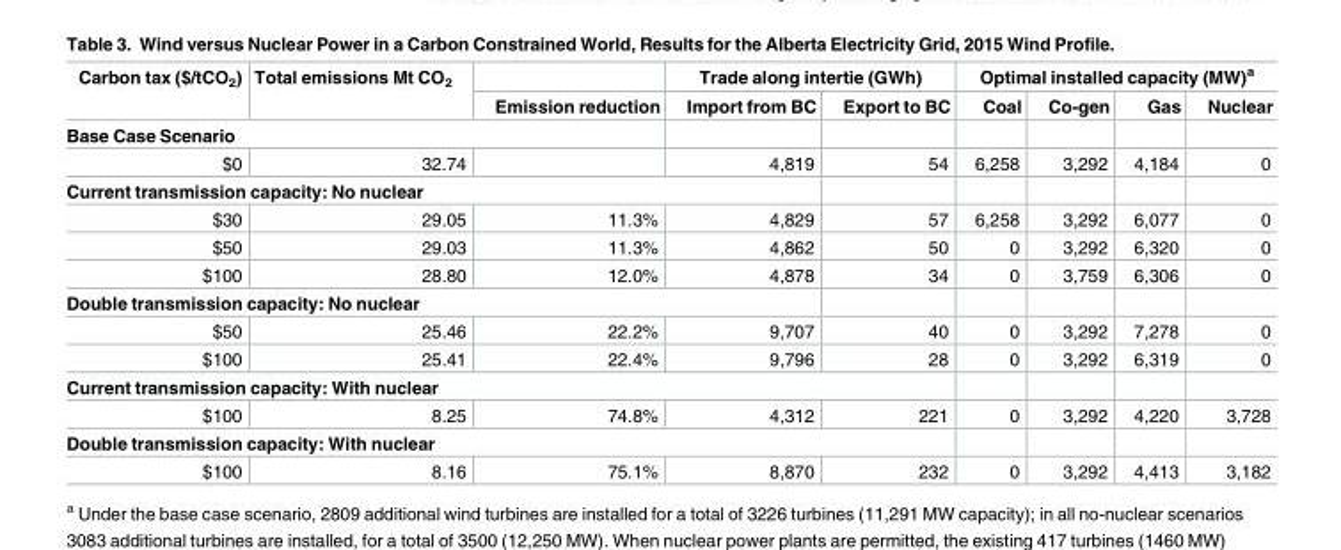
<table><thead><tr><td rowspan="2">Carbon tax ($/tCO<sub>2</sub>)</td><td rowspan="2">Total emissions Mt CO<sub>2</sub></td><td rowspan="2">Emission reduction</td><td colspan="2">Trade along intertie (GWh)</td><td colspan="4">Optimal installed capacity (MW)<sup>a</sup></td></tr><tr><td>Import from BC</td><td>Export to BC</td><td>Coal</td><td>Co-gen</td><td>Gas</td><td>Nuclear</td></tr></thead><tbody><tr><td colspan="9">Base Case Scenario</td></tr><tr><td>$0</td><td>32.74</td><td></td><td>4,819</td><td>54</td><td>6,258</td><td>3,292</td><td>4,184</td><td>0</td></tr><tr><td colspan="9">Current transmission capacity: No nuclear</td></tr><tr><td>$30</td><td>29.05</td><td>11.3%</td><td>4,829</td><td>57</td><td>6,258</td><td>3,292</td><td>6,077</td><td>0</td></tr><tr><td>$50</td><td>29.03</td><td>11.3%</td><td>4,862</td><td>50</td><td>0</td><td>3,292</td><td>6,320</td><td>0</td></tr><tr><td>$100</td><td>28.80</td><td>12.0%</td><td>4,878</td><td>34</td><td>0</td><td>3,759</td><td>6,306</td><td>0</td></tr><tr><td colspan="9">Double transmission capacity: No nuclear</td></tr><tr><td>$50</td><td>25.46</td><td>22.2%</td><td>9,707</td><td>40</td><td>0</td><td>3,292</td><td>7,278</td><td>0</td></tr><tr><td>$100</td><td>25.41</td><td>22.4%</td><td>9,796</td><td>28</td><td>0</td><td>3,292</td><td>6,319</td><td>0</td></tr><tr><td colspan="9">Current transmission capacity: With nuclear</td></tr><tr><td>$100</td><td>8.25</td><td>74.8%</td><td>4,312</td><td>221</td><td>0</td><td>3,292</td><td>4,220</td><td>3,728</td></tr><tr><td colspan="9">Double transmission capacity: With nuclear</td></tr><tr><td>$100</td><td>8.16</td><td>75.1%</td><td>8,870</td><td>232</td><td>0</td><td>3,292</td><td>4,413</td><td>3,182</td></tr></tbody></table>